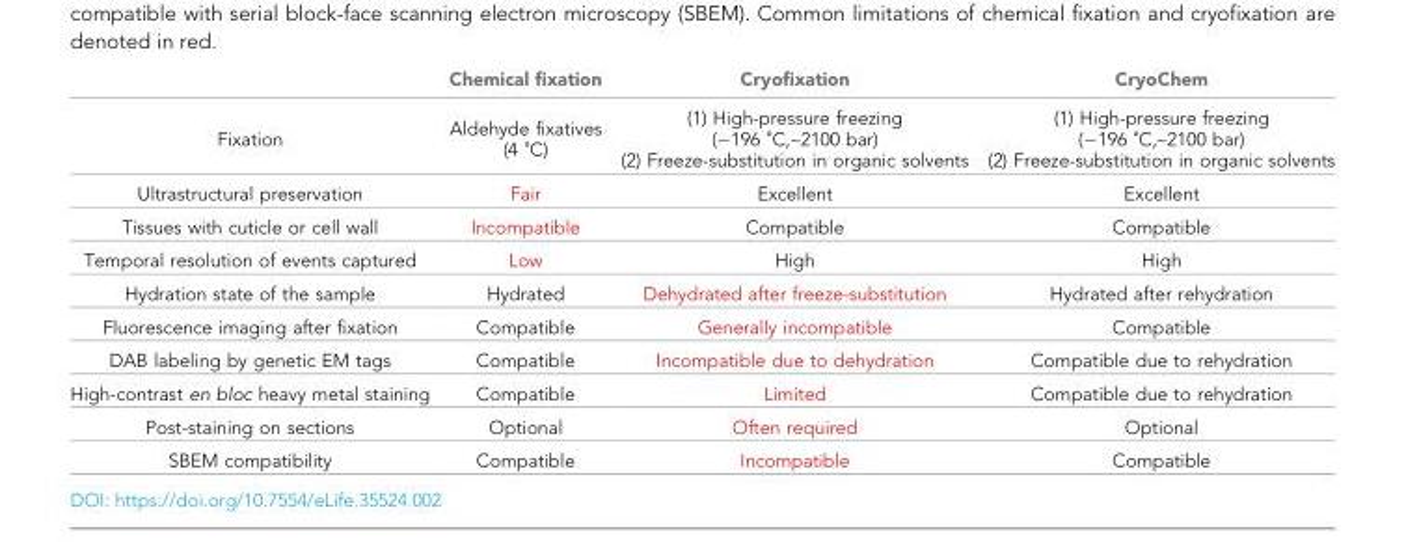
<table><thead><tr><td></td><td>Chemical fixation</td><td>Cryofixation</td><td>CryoChem</td></tr></thead><tbody><tr><td>Fixation</td><td>Aldehyde fixatives (4 ˚C)</td><td>(1) High-pressure freezing (−196 ˚C,~2100 bar) (2) Freeze-substitution in organic solvents</td><td>(1) High-pressure freezing (−196 ˚C,~2100 bar) (2) Freeze-substitution in organic solvents</td></tr><tr><td>Ultrastructural preservation</td><td>Fair</td><td>Excellent</td><td>Excellent</td></tr><tr><td>Tissues with cuticle or cell wall</td><td>Incompatible</td><td>Compatible</td><td>Compatible</td></tr><tr><td>Temporal resolution of events captured</td><td>Low</td><td>High</td><td>High</td></tr><tr><td>Hydration state of the sample</td><td>Hydrated</td><td>Dehydrated after freeze-substitution</td><td>Hydrated after rehydration</td></tr><tr><td>Fluorescence imaging after fixation</td><td>Compatible</td><td>Generally incompatible</td><td>Compatible</td></tr><tr><td>DAB labeling by genetic EM tags</td><td>Compatible</td><td>Incompatible due to dehydration</td><td>Compatible due to rehydration</td></tr><tr><td>High-contrast en bloc heavy metal staining</td><td>Compatible</td><td>Limited</td><td>Compatible due to rehydration</td></tr><tr><td>Post-staining on sections</td><td>Optional</td><td>Often required</td><td>Optional</td></tr><tr><td>SBEM compatibility</td><td>Compatible</td><td>Incompatible</td><td>Compatible</td></tr></tbody></table>